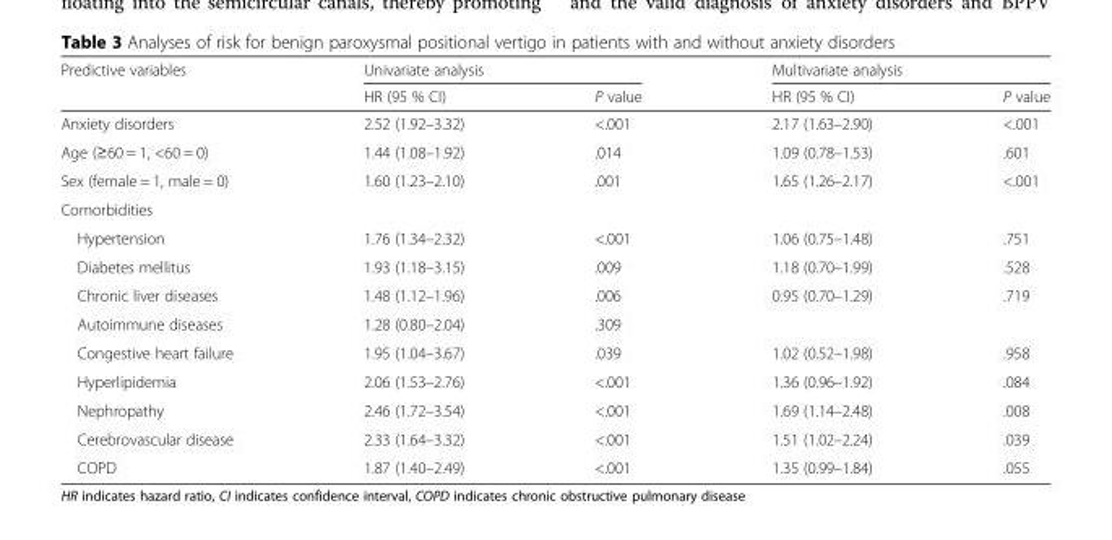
<table><thead><tr><td rowspan="2">Predictive variables</td><td colspan="2">Univariate analysis</td><td colspan="2">Multivariate analysis</td></tr><tr><td>HR (95 % CI)</td><td>P value</td><td>HR (95 % CI)</td><td>P value</td></tr></thead><tbody><tr><td>Anxiety disorders</td><td>2.52 (1.92–3.32)</td><td>&lt;.001</td><td>2.17 (1.63–2.90)</td><td>&lt;.001</td></tr><tr><td>Age (≥60 = 1, &lt;60 = 0)</td><td>1.44 (1.08–1.92)</td><td>.014</td><td>1.09 (0.78–1.53)</td><td>.601</td></tr><tr><td>Sex (female = 1, male = 0)</td><td>1.60 (1.23–2.10)</td><td>.001</td><td>1.65 (1.26–2.17)</td><td>&lt;.001</td></tr><tr><td colspan="5">Comorbidities</td></tr><tr><td>Hypertension</td><td>1.76 (1.34–2.32)</td><td>&lt;.001</td><td>1.06 (0.75–1.48)</td><td>.751</td></tr><tr><td>Diabetes mellitus</td><td>1.93 (1.18–3.15)</td><td>.009</td><td>1.18 (0.70–1.99)</td><td>.528</td></tr><tr><td>Chronic liver diseases</td><td>1.48 (1.12–1.96)</td><td>.006</td><td>0.95 (0.70–1.29)</td><td>.719</td></tr><tr><td>Autoimmune diseases</td><td>1.28 (0.80–2.04)</td><td>.309</td><td></td><td></td></tr><tr><td>Congestive heart failure</td><td>1.95 (1.04–3.67)</td><td>.039</td><td>1.02 (0.52–1.98)</td><td>.958</td></tr><tr><td>Hyperlipidemia</td><td>2.06 (1.53–2.76)</td><td>&lt;.001</td><td>1.36 (0.96–1.92)</td><td>.084</td></tr><tr><td>Nephropathy</td><td>2.46 (1.72–3.54)</td><td>&lt;.001</td><td>1.69 (1.14–2.48)</td><td>.008</td></tr><tr><td>Cerebrovascular disease</td><td>2.33 (1.64–3.32)</td><td>&lt;.001</td><td>1.51 (1.02–2.24)</td><td>.039</td></tr><tr><td>COPD</td><td>1.87 (1.40–2.49)</td><td>&lt;.001</td><td>1.35 (0.99–1.84)</td><td>.055</td></tr></tbody></table>